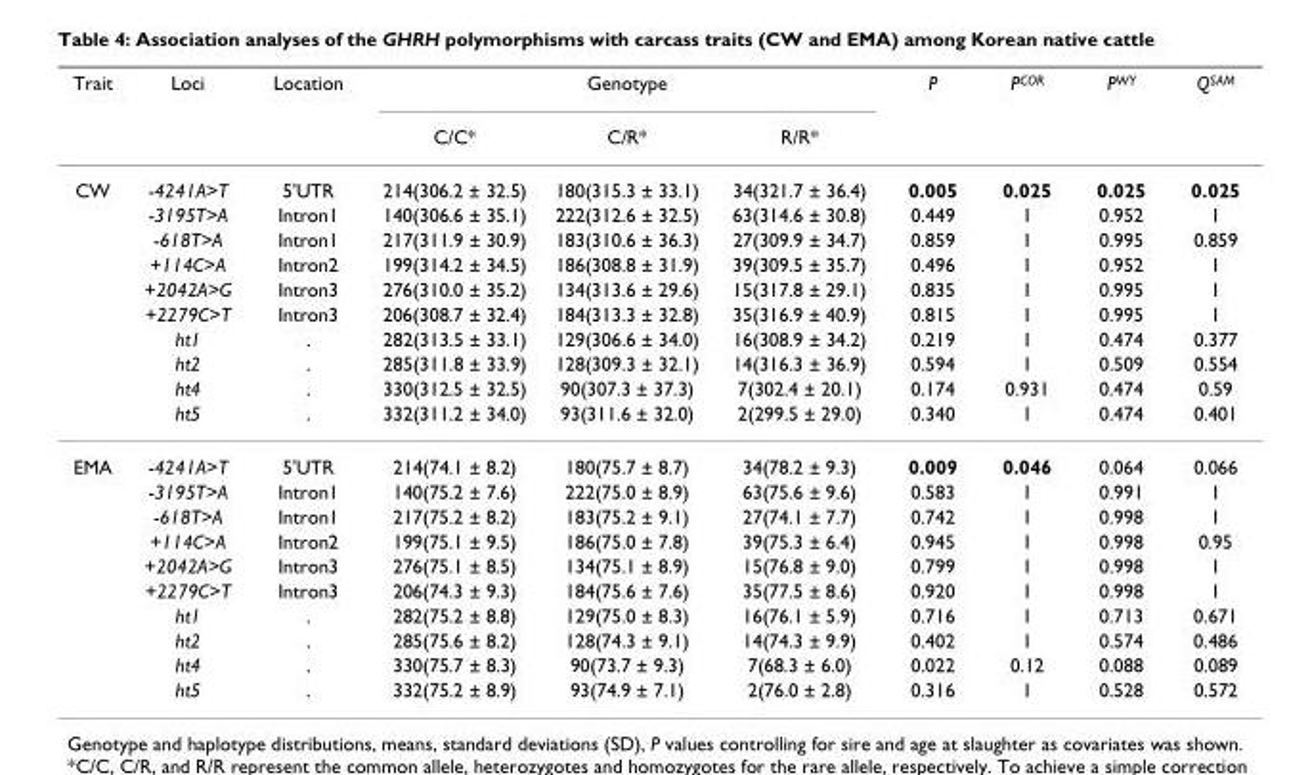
<table><thead><tr><td rowspan="2">Trait</td><td rowspan="2">Loci</td><td rowspan="2">Location</td><td colspan="3">Genotype</td><td rowspan="2">P</td><td rowspan="2">P<sup>COR</sup></td><td rowspan="2">P<sup>WY</sup></td><td rowspan="2">Q<sup>SAM</sup></td></tr><tr><td>C/C*</td><td>C/R*</td><td>R/R*</td></tr></thead><tbody><tr><td rowspan="10">CW</td><td>-4241A&gt;T</td><td>5&#x27;UTR</td><td>214(306.2 ± 32.5)</td><td>180(315.3 ± 33.1)</td><td>34(321.7 ± 36.4)</td><td>0.005</td><td>0.025</td><td>0.025</td><td>0.025</td></tr><tr><td>-3195T&gt;A</td><td>Intron1</td><td>140(306.6 ± 35.1)</td><td>222(312.6 ± 32.5)</td><td>63(314.6 ± 30.8)</td><td>0.449</td><td>1</td><td>0.952</td><td>1</td></tr><tr><td>-618T&gt;A</td><td>Intron1</td><td>217(311.9 ± 30.9)</td><td>183(310.6 ± 36.3)</td><td>27(309.9 ± 34.7)</td><td>0.859</td><td>1</td><td>0.995</td><td>0.859</td></tr><tr><td>+114C&gt;A</td><td>Intron2</td><td>199(314.2 ± 34.5)</td><td>186(308.8 ± 31.9)</td><td>39(309.5 ± 35.7)</td><td>0.496</td><td>1</td><td>0.952</td><td>1</td></tr><tr><td>+2042A&gt;G</td><td>Intron3</td><td>276(310.0 ± 35.2)</td><td>134(313.6 ± 29.6)</td><td>15(317.8 ± 29.1)</td><td>0.835</td><td>1</td><td>0.995</td><td>1</td></tr><tr><td>+2279C&gt;T</td><td>Intron3</td><td>206(308.7 ± 32.4)</td><td>184(313.3 ± 32.8)</td><td>35(316.9 ± 40.9)</td><td>0.815</td><td>1</td><td>0.995</td><td>1</td></tr><tr><td>ht1</td><td>.</td><td>282(313.5 ± 33.1)</td><td>129(306.6 ± 34.0)</td><td>16(308.9 ± 34.2)</td><td>0.219</td><td>1</td><td>0.474</td><td>0.377</td></tr><tr><td>ht2</td><td>.</td><td>285(311.8 ± 33.9)</td><td>128(309.3 ± 32.1)</td><td>14(316.3 ± 36.9)</td><td>0.594</td><td>1</td><td>0.509</td><td>0.554</td></tr><tr><td>ht4</td><td>.</td><td>330(312.5 ± 32.5)</td><td>90(307.3 ± 37.3)</td><td>7(302.4 ± 20.1)</td><td>0.174</td><td>0.931</td><td>0.474</td><td>0.59</td></tr><tr><td>ht5</td><td>.</td><td>332(311.2 ± 34.0)</td><td>93(311.6 ± 32.0)</td><td>2(299.5 ± 29.0)</td><td>0.340</td><td>1</td><td>0.474</td><td>0.401</td></tr><tr><td rowspan="10">EMA</td><td>-4241A&gt;T</td><td>5&#x27;UTR</td><td>214(74.1 ± 8.2)</td><td>180(75.7 ± 8.7)</td><td>34(78.2 ± 9.3)</td><td>0.009</td><td>0.046</td><td>0.064</td><td>0.066</td></tr><tr><td>-3195T&gt;A</td><td>Intron1</td><td>140(75.2 ± 7.6)</td><td>222(75.0 ± 8.9)</td><td>63(75.6 ± 9.6)</td><td>0.583</td><td>1</td><td>0.991</td><td>1</td></tr><tr><td>-618T&gt;A</td><td>Intron1</td><td>217(75.2 ± 8.2)</td><td>183(75.2 ± 9.1)</td><td>27(74.1 ± 7.7)</td><td>0.742</td><td>1</td><td>0.998</td><td>1</td></tr><tr><td>+114C&gt;A</td><td>Intron2</td><td>199(75.1 ± 9.5)</td><td>186(75.0 ± 7.8)</td><td>39(75.3 ± 6.4)</td><td>0.945</td><td>1</td><td>0.998</td><td>0.95</td></tr><tr><td>+2042A&gt;G</td><td>Intron3</td><td>276(75.1 ± 8.5)</td><td>134(75.1 ± 8.9)</td><td>15(76.8 ± 9.0)</td><td>0.799</td><td>1</td><td>0.998</td><td>1</td></tr><tr><td>+2279C&gt;T</td><td>Intron3</td><td>206(74.3 ± 9.3)</td><td>184(75.6 ± 7.6)</td><td>35(77.5 ± 8.6)</td><td>0.920</td><td>1</td><td>0.998</td><td>1</td></tr><tr><td>ht1</td><td>.</td><td>282(75.2 ± 8.8)</td><td>129(75.0 ± 8.3)</td><td>16(76.1 ± 5.9)</td><td>0.716</td><td>1</td><td>0.713</td><td>0.671</td></tr><tr><td>ht2</td><td>.</td><td>285(75.6 ± 8.2)</td><td>128(74.3 ± 9.1)</td><td>14(74.3 ± 9.9)</td><td>0.402</td><td>1</td><td>0.574</td><td>0.486</td></tr><tr><td>ht4</td><td>.</td><td>330(75.7 ± 8.3)</td><td>90(73.7 ± 9.3)</td><td>7(68.3 ± 6.0)</td><td>0.022</td><td>0.12</td><td>0.088</td><td>0.089</td></tr><tr><td>ht5</td><td>.</td><td>332(75.2 ± 8.9)</td><td>93(74.9 ± 7.1)</td><td>2(76.0 ± 2.8)</td><td>0.316</td><td>1</td><td>0.528</td><td>0.572</td></tr></tbody></table>